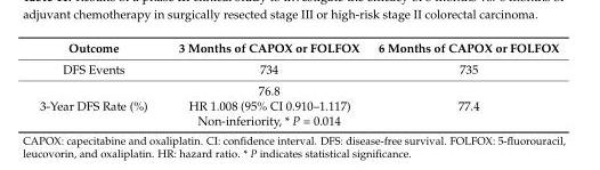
<table><thead><tr><td>Outcome</td><td>3 Months of CAPOX or FOLFOX</td><td>6 Months of CAPOX or FOLFOX</td></tr></thead><tbody><tr><td>DFS Events</td><td>734</td><td>735</td></tr><tr><td>3-Year DFS Rate (%)</td><td>76.8 HR 1.008 (95% CI 0.910–1.117) Non-inferiority, * P = 0.014</td><td>77.4</td></tr></tbody></table>